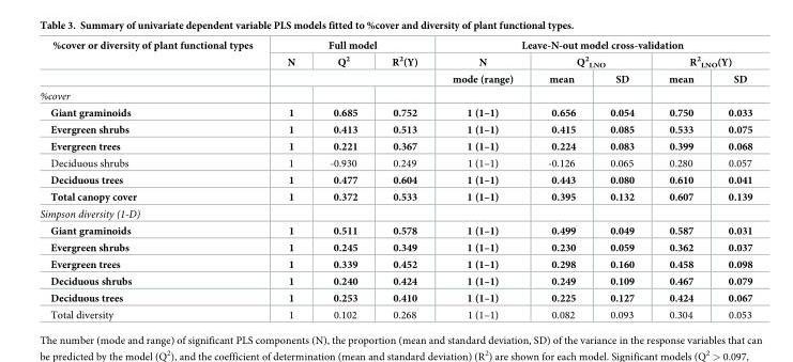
<table><thead><tr><td rowspan="3">%cover or diversity of plant functional types</td><td colspan="3">Full model</td><td colspan="5">Leave-N-out model cross-validation</td></tr><tr><td rowspan="2">N</td><td rowspan="2">Q<sup>2</sup></td><td rowspan="2">R<sup>2</sup>(Y)</td><td rowspan="2">N mode (range)</td><td colspan="2">Q<sup>2</sup> <sub>LNO</sub></td><td colspan="2">R<sup>2</sup> <sub>LNO</sub>(Y)</td></tr><tr><td>mean</td><td>SD</td><td>mean</td><td>SD</td></tr></thead><tbody><tr><td colspan="9">%cover</td></tr><tr><td>Giant graminoids</td><td>1</td><td>0.685</td><td>0.752</td><td>1 (1–1)</td><td>0.656</td><td>0.054</td><td>0.750</td><td>0.033</td></tr><tr><td>Evergreen shrubs</td><td>1</td><td>0.413</td><td>0.513</td><td>1 (1–1)</td><td>0.415</td><td>0.085</td><td>0.533</td><td>0.075</td></tr><tr><td>Evergreen trees</td><td>1</td><td>0.221</td><td>0.367</td><td>1 (1–1)</td><td>0.224</td><td>0.083</td><td>0.399</td><td>0.068</td></tr><tr><td>Deciduous shrubs</td><td>1</td><td>-0.930</td><td>0.249</td><td>1 (1–1)</td><td>-0.126</td><td>0.065</td><td>0.280</td><td>0.057</td></tr><tr><td>Deciduous trees</td><td>1</td><td>0.477</td><td>0.604</td><td>1 (1–1)</td><td>0.443</td><td>0.080</td><td>0.610</td><td>0.041</td></tr><tr><td>Total canopy cover</td><td>1</td><td>0.372</td><td>0.533</td><td>1 (1–1)</td><td>0.395</td><td>0.132</td><td>0.607</td><td>0.139</td></tr><tr><td colspan="9">Simpson diversity (1-D)</td></tr><tr><td>Giant graminoids</td><td>1</td><td>0.511</td><td>0.578</td><td>1 (1–1)</td><td>0.499</td><td>0.049</td><td>0.587</td><td>0.031</td></tr><tr><td>Evergreen shrubs</td><td>1</td><td>0.245</td><td>0.349</td><td>1 (1–1)</td><td>0.230</td><td>0.059</td><td>0.362</td><td>0.037</td></tr><tr><td>Evergreen trees</td><td>1</td><td>0.339</td><td>0.452</td><td>1 (1–1)</td><td>0.298</td><td>0.160</td><td>0.458</td><td>0.098</td></tr><tr><td>Deciduous shrubs</td><td>1</td><td>0.240</td><td>0.424</td><td>1 (1–1)</td><td>0.249</td><td>0.109</td><td>0.467</td><td>0.079</td></tr><tr><td>Deciduous trees</td><td>1</td><td>0.253</td><td>0.410</td><td>1 (1–1)</td><td>0.225</td><td>0.127</td><td>0.424</td><td>0.067</td></tr><tr><td>Total diversity</td><td>1</td><td>0.102</td><td>0.268</td><td>1 (1–1)</td><td>0.082</td><td>0.093</td><td>0.304</td><td>0.053</td></tr></tbody></table>